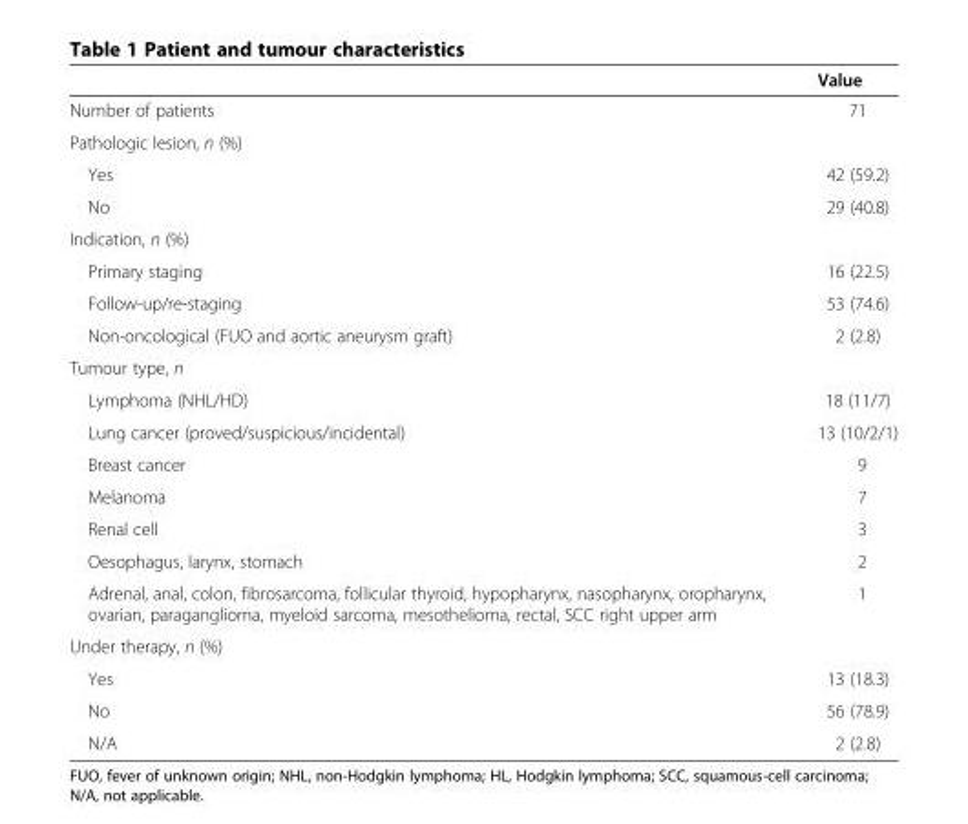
<table><thead><tr><td></td><td>Value</td></tr></thead><tbody><tr><td>Number of patients</td><td>71</td></tr><tr><td colspan="2">Pathologic lesion, n (%)</td></tr><tr><td>Yes</td><td>42 (59.2)</td></tr><tr><td>No</td><td>29 (40.8)</td></tr><tr><td colspan="2">Indication, n (%)</td></tr><tr><td>Primary staging</td><td>16 (22.5)</td></tr><tr><td>Follow-up/re-staging</td><td>53 (74.6)</td></tr><tr><td>Non-oncological (FUO and aortic aneurysm graft)</td><td>2 (2.8)</td></tr><tr><td colspan="2">Tumour type, n</td></tr><tr><td>Lymphoma (NHL/HD)</td><td>18 (11/7)</td></tr><tr><td>Lung cancer (proved/suspicious/incidental)</td><td>13 (10/2/1)</td></tr><tr><td>Breast cancer</td><td>9</td></tr><tr><td>Melanoma</td><td>7</td></tr><tr><td>Renal cell</td><td>3</td></tr><tr><td>Oesophagus, larynx, stomach</td><td>2</td></tr><tr><td>Adrenal, anal, colon, fibrosarcoma, follicular thyroid, hypopharynx, nasopharynx, oropharynx, ovarian, paraganglioma, myeloid sarcoma, mesothelioma, rectal, SCC right upper arm</td><td>1</td></tr><tr><td colspan="2">Under therapy, n (%)</td></tr><tr><td>Yes</td><td>13 (18.3)</td></tr><tr><td>No</td><td>56 (78.9)</td></tr><tr><td>N/A</td><td>2 (2.8)</td></tr></tbody></table>